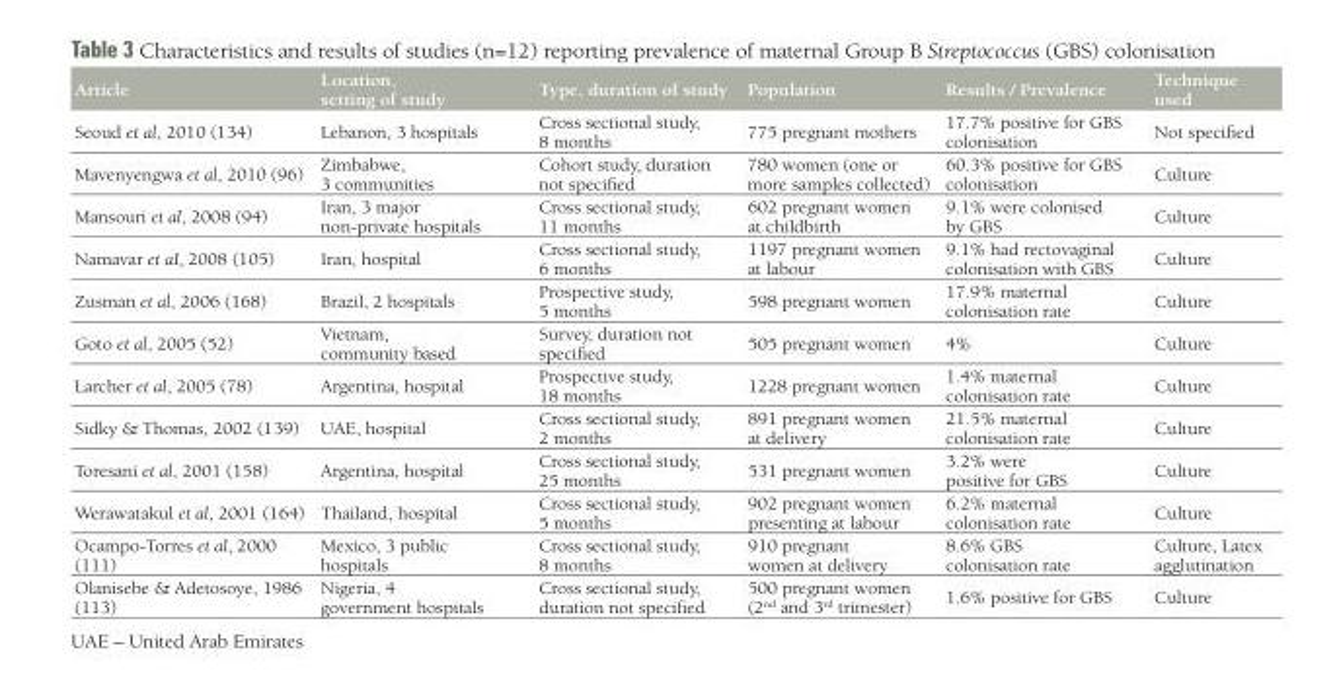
<table><thead><tr><td>Article</td><td>Location, setting of study</td><td>Type, duration of study</td><td>Population</td><td>Results / Prevalence</td><td>Technique used</td></tr></thead><tbody><tr><td>Seoud et al, 2010 (134)</td><td>Lebanon, 3 hospitals</td><td>Cross sectional study, 8 months</td><td>775 pregnant mothers</td><td>17.7% positive for GBS colonisation</td><td>Not specified</td></tr><tr><td>Mavenyengwa et al, 2010 (96)</td><td>Zimbabwe, 3 communities</td><td>Cohort study, duration not specified</td><td>780 women (one or more samples collected)</td><td>60.3% positive for GBS colonisation</td><td>Culture</td></tr><tr><td>Mansouri et al, 2008 (94)</td><td>Iran, 3 major non-private hospitals</td><td>Cross sectional study, 11 months</td><td>602 pregnant women at childbirth</td><td>9.1% were colonised by GBS</td><td>Culture</td></tr><tr><td>Namavar et aI, 2008 (105)</td><td>Iran, hospital</td><td>Cross sectional study, 6 months</td><td>1197 pregnant women at labour</td><td>9.1% had rectovaginal colonisation with GBS</td><td>Culture</td></tr><tr><td>Zusman et al, 2006 (168)</td><td>Brazil, 2 hospitals</td><td>Prospective study, 5 months</td><td>598 pregnant women</td><td>17.9% maternal colonisation rate</td><td>Culture</td></tr><tr><td>Goto et al, 2005 (52)</td><td>Vietnam, community based</td><td>Survey, duration not specified</td><td>505 pregnant women</td><td>4%</td><td>Culture</td></tr><tr><td>Larcher et al, 2005 (78)</td><td>Argentina, hospital</td><td>Prospective study, 18 months</td><td>1228 pregnant women</td><td>1.4% maternal colonisation rate</td><td>Culture</td></tr><tr><td>Sidky &amp; Thomas, 2002 (139)</td><td>UAE, hospital</td><td>Cross sectional study, 2 months</td><td>891 pregnant women at delivery</td><td>21.5% maternal colonisation rate</td><td>Culture</td></tr><tr><td>Toresani et al, 2001 (158)</td><td>Argentina, hospital</td><td>Cross sectional study, 25 months</td><td>531 pregnant women</td><td>3.2% were positive for GBS</td><td>Culture</td></tr><tr><td>Werawatakul et al, 2001 (164)</td><td>Thailand, hospital</td><td>Cross sectional study, 5 months</td><td>902 pregnant women presenting at labour</td><td>6.2% maternal colonisation rate</td><td>Culture</td></tr><tr><td>Ocampo-Torres et al, 2000 (111)</td><td>Mexico, 3 public hospitals</td><td>Cross sectional study, 8 months</td><td>910 pregnant women at delivery</td><td>8.6% GBS colonisation rate</td><td>Culture, Latex agglutination</td></tr><tr><td>Olanisebe &amp; Adetosoye, 1986 (113)</td><td>Nigeria, 4 government hospitals</td><td>Cross sectional study, duration not specified</td><td>500 pregnant women (2nd and 3rd trimester)</td><td>1.6% positive for GBS</td><td>Culture</td></tr></tbody></table>